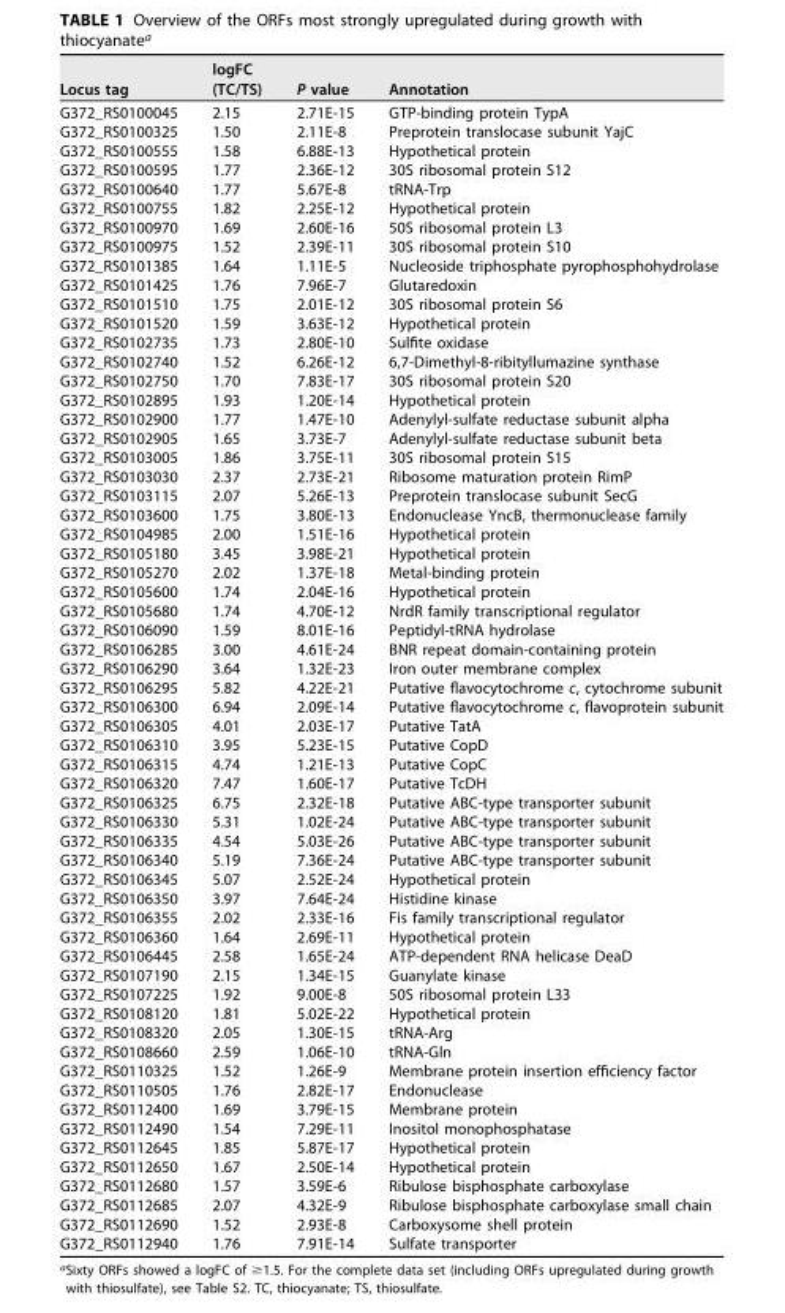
<table><thead><tr><td>Locus tag</td><td>logFC (TC/TS)</td><td>P value</td><td>Annotation</td></tr></thead><tbody><tr><td>G372_RS0100045</td><td>2.15</td><td>2.71E-15</td><td>GTP-binding protein TypA</td></tr><tr><td>G372_RS0100325</td><td>1.50</td><td>2.11E-8</td><td>Preprotein translocase subunit YajC</td></tr><tr><td>G372_RS0100555</td><td>1.58</td><td>6.88E-13</td><td>Hypothetical protein</td></tr><tr><td>G372_RS0100595</td><td>1.77</td><td>2.36E-12</td><td>30S ribosomal protein S12</td></tr><tr><td>G372_RS0100640</td><td>1.77</td><td>5.67E-8</td><td>tRNA-Trp</td></tr><tr><td>G372_RS0100755</td><td>1.82</td><td>2.25E-12</td><td>Hypothetical protein</td></tr><tr><td>G372_RS0100970</td><td>1.69</td><td>2.60E-16</td><td>50S ribosomal protein L3</td></tr><tr><td>G372_RS0100975</td><td>1.52</td><td>2.39E-11</td><td>30S ribosomal protein S10</td></tr><tr><td>G372_RS0101385</td><td>1.64</td><td>1.11E-5</td><td>Nucleoside triphosphate pyrophosphohydrolase</td></tr><tr><td>G372_RS0101425</td><td>1.76</td><td>7.96E-7</td><td>Glutaredoxin</td></tr><tr><td>G372_RS0101510</td><td>1.75</td><td>2.01E-12</td><td>30S ribosomal protein S6</td></tr><tr><td>G372_RS0101520</td><td>1.59</td><td>3.63E-12</td><td>Hypothetical protein</td></tr><tr><td>G372_RS0102735</td><td>1.73</td><td>2.80E-10</td><td>Sulfite oxidase</td></tr><tr><td>G372_RS0102740</td><td>1.52</td><td>6.26E-12</td><td>6,7-Dimethyl-8-ribityllumazine synthase</td></tr><tr><td>G372_RS0102750</td><td>1.70</td><td>7.83E-17</td><td>30S ribosomal protein S20</td></tr><tr><td>G372_RS0102895</td><td>1.93</td><td>1.20E-14</td><td>Hypothetical protein</td></tr><tr><td>G372_RS0102900</td><td>1.77</td><td>1.47E-10</td><td>Adenylyl-sulfate reductase subunit alpha</td></tr><tr><td>G372_RS0102905</td><td>1.65</td><td>3.73E-7</td><td>Adenylyl-sulfate reductase subunit beta</td></tr><tr><td>G372_RS0103005</td><td>1.86</td><td>3.75E-11</td><td>30S ribosomal protein S15</td></tr><tr><td>G372_RS0103030</td><td>2.37</td><td>2.73E-21</td><td>Ribosome maturation protein RimP</td></tr><tr><td>G372_RS0103115</td><td>2.07</td><td>5.26E-13</td><td>Preprotein translocase subunit SecG</td></tr><tr><td>G372_RS0103600</td><td>1.75</td><td>3.80E-13</td><td>Endonuclease YncB, thermonuclease family</td></tr><tr><td>G372_RS0104985</td><td>2.00</td><td>1.51E-16</td><td>Hypothetical protein</td></tr><tr><td>G372_RS0105180</td><td>3.45</td><td>3.98E-21</td><td>Hypothetical protein</td></tr><tr><td>G372_RS0105270</td><td>2.02</td><td>1.37E-18</td><td>Metal-binding protein</td></tr><tr><td>G372_RS0105600</td><td>1.74</td><td>2.04E-16</td><td>Hypothetical protein</td></tr><tr><td>G372_RS0105680</td><td>1.74</td><td>4.70E-12</td><td>NrdR family transcriptional regulator</td></tr><tr><td>G372_RS0106090</td><td>1.59</td><td>8.01E-16</td><td>Peptidyl-tRNA hydrolase</td></tr><tr><td>G372_RS0106285</td><td>3.00</td><td>4.61E-24</td><td>BNR repeat domain-containing protein</td></tr><tr><td>G372_RS0106290</td><td>3.64</td><td>1.32E-23</td><td>Iron outer membrane complex</td></tr><tr><td>G372_RS0106295</td><td>5.82</td><td>4.22E-21</td><td>Putative flavocytochrome c, cytochrome subunit</td></tr><tr><td>G372_RS0106300</td><td>6.94</td><td>2.09E-14</td><td>Putative flavocytochrome c, flavoprotein subunit</td></tr><tr><td>G372_RS0106305</td><td>4.01</td><td>2.03E-17</td><td>Putative TatA</td></tr><tr><td>G372_RS0106310</td><td>3.95</td><td>5.23E-15</td><td>Putative CopD</td></tr><tr><td>G372_RS0106315</td><td>4.74</td><td>1.21E-13</td><td>Putative CopC</td></tr><tr><td>G372_RS0106320</td><td>7.47</td><td>1.60E-17</td><td>Putative TcDH</td></tr><tr><td>G372_RS0106325</td><td>6.75</td><td>2.32E-18</td><td>Putative ABC-type transporter subunit</td></tr><tr><td>G372_RS0106330</td><td>5.31</td><td>1.02E-24</td><td>Putative ABC-type transporter subunit</td></tr><tr><td>G372_RS0106335</td><td>4.54</td><td>5.03E-26</td><td>Putative ABC-type transporter subunit</td></tr><tr><td>G372_RS0106340</td><td>5.19</td><td>7.36E-24</td><td>Putative ABC-type transporter subunit</td></tr><tr><td>G372_RS0106345</td><td>5.07</td><td>2.52E-24</td><td>Hypothetical protein</td></tr><tr><td>G372_RS0106350</td><td>3.97</td><td>7.64E-24</td><td>Histidine kinase</td></tr><tr><td>G372_RS0106355</td><td>2.02</td><td>2.33E-16</td><td>Fis family transcriptional regulator</td></tr><tr><td>G372_RS0106360</td><td>1.64</td><td>2.69E-11</td><td>Hypothetical protein</td></tr><tr><td>G372_RS0106445</td><td>2.58</td><td>1.65E-24</td><td>ATP-dependent RNA helicase DeaD</td></tr><tr><td>G372_RS0107190</td><td>2.15</td><td>1.34E-15</td><td>Guanylate kinase</td></tr><tr><td>G372_RS0107225</td><td>1.92</td><td>9.00E-8</td><td>50S ribosomal protein L33</td></tr><tr><td>G372_RS0108120</td><td>1.81</td><td>5.02E-22</td><td>Hypothetical protein</td></tr><tr><td>G372_RS0108320</td><td>2.05</td><td>1.30E-15</td><td>tRNA-Arg</td></tr><tr><td>G372_RS0108660</td><td>2.59</td><td>1.06E-10</td><td>tRNA-Gln</td></tr><tr><td>G372_RS0110325</td><td>1.52</td><td>1.26E-9</td><td>Membrane protein insertion efficiency factor</td></tr><tr><td>G372_RS0110505</td><td>1.76</td><td>2.82E-17</td><td>Endonuclease</td></tr><tr><td>G372_RS0112400</td><td>1.69</td><td>3.79E-15</td><td>Membrane protein</td></tr><tr><td>G372_RS0112490</td><td>1.54</td><td>7.29E-11</td><td>Inositol monophosphatase</td></tr><tr><td>G372_RS0112645</td><td>1.85</td><td>5.87E-17</td><td>Hypothetical protein</td></tr><tr><td>G372_RS0112650</td><td>1.67</td><td>2.50E-14</td><td>Hypothetical protein</td></tr><tr><td>G372_RS0112680</td><td>1.57</td><td>3.59E-6</td><td>Ribulose bisphosphate carboxylase</td></tr><tr><td>G372_RS0112685</td><td>2.07</td><td>4.32E-9</td><td>Ribulose bisphosphate carboxylase small chain</td></tr><tr><td>G372_RS0112690</td><td>1.52</td><td>2.93E-8</td><td>Carboxysome shell protein</td></tr><tr><td>G372_RS0112940</td><td>1.76</td><td>7.91E-14</td><td>Sulfate transporter</td></tr></tbody></table>